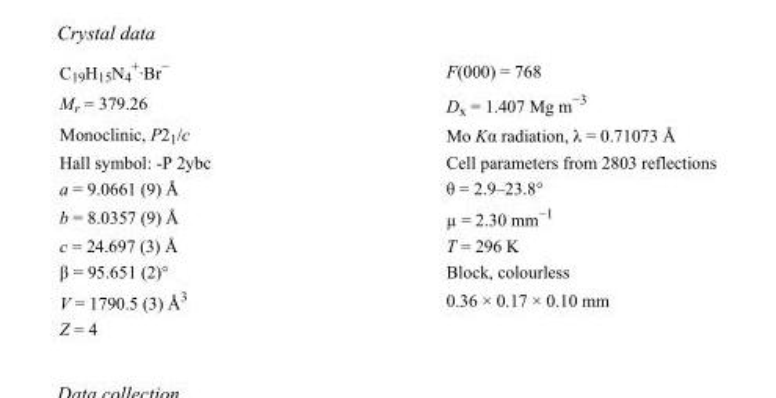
<table><tbody><tr><td>C<sub>19</sub>H<sub>15</sub>N<sub>4</sub> <sup>+</sup>·Br<sup>−</sup></td><td>F(000) = 768</td></tr><tr><td>M<sub>r</sub> = 379.26</td><td>D<sub>x</sub> = 1.407 Mg m<sup>−3</sup></td></tr><tr><td>Monoclinic, P2<sub>1</sub>/c</td><td>Mo Kα radiation, λ = 0.71073 Å</td></tr><tr><td>Hall symbol: -P 2ybc</td><td>Cell parameters from 2803 reflections</td></tr><tr><td>a = 9.0661 (9) Å</td><td>θ = 2.9–23.8°</td></tr><tr><td>b = 8.0357 (9) Å</td><td>µ = 2.30 mm<sup>−1</sup></td></tr><tr><td>c = 24.697 (3) Å</td><td>T = 296 K</td></tr><tr><td>β = 95.651 (2)°</td><td>Block, colourless</td></tr><tr><td>V = 1790.5 (3) Å<sup>3</sup></td><td>0.36 × 0.17 × 0.10 mm</td></tr><tr><td>Z = 4</td><td></td></tr></tbody></table>